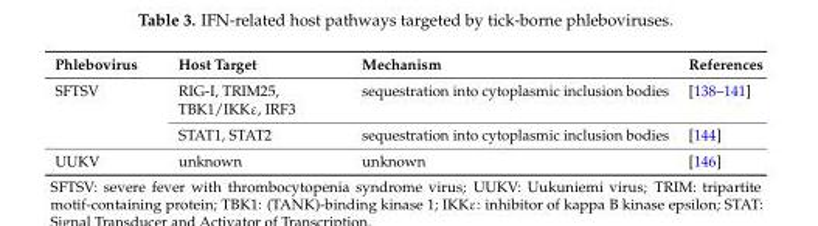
<table><thead><tr><td>Phlebovirus</td><td>Host Target</td><td>Mechanism</td><td>References</td></tr></thead><tbody><tr><td rowspan="2">SFTSV</td><td>RIG-I, TRIM25, TBK1/IKKε, IRF3</td><td>sequestration into cytoplasmic inclusion bodies</td><td>[138–141]</td></tr><tr><td>STAT1, STAT2</td><td>sequestration into cytoplasmic inclusion bodies</td><td>[144]</td></tr><tr><td>UUKV</td><td>unknown</td><td>unknown</td><td>[146]</td></tr></tbody></table>